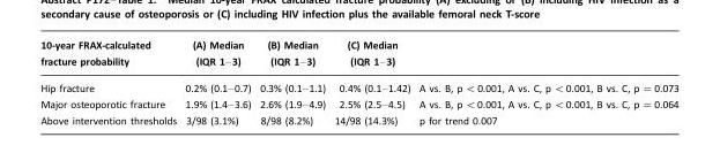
<table><thead><tr><td>10-year FRAX-calculated fracture probability</td><td>(A) Median (IQR 1–3)</td><td>(B) Median (IQR 1–3)</td><td>(C) Median (IQR 1–3)</td><td></td></tr></thead><tbody><tr><td>Hip fracture</td><td>0.2% (0.1–0.7)</td><td>0.3% (0.1–1.1)</td><td>0.4% (0.1–1.42)</td><td>A vs. B, p &lt;0.001, A vs. C, p &lt;0.001, B vs. C, p =0.073</td></tr><tr><td>Major osteoporotic fracture</td><td>1.9% (1.4–3.6)</td><td>2.6% (1.9–4.9)</td><td>2.5% (2.5–4.5)</td><td>A vs. B, p &lt;0.001, A vs. C, p &lt;0.001, B vs. C, p =0.064</td></tr><tr><td>Above intervention thresholds</td><td>3/98 (3.1%)</td><td>8/98 (8.2%)</td><td>14/98 (14.3%)</td><td>p for trend 0.007</td></tr></tbody></table>